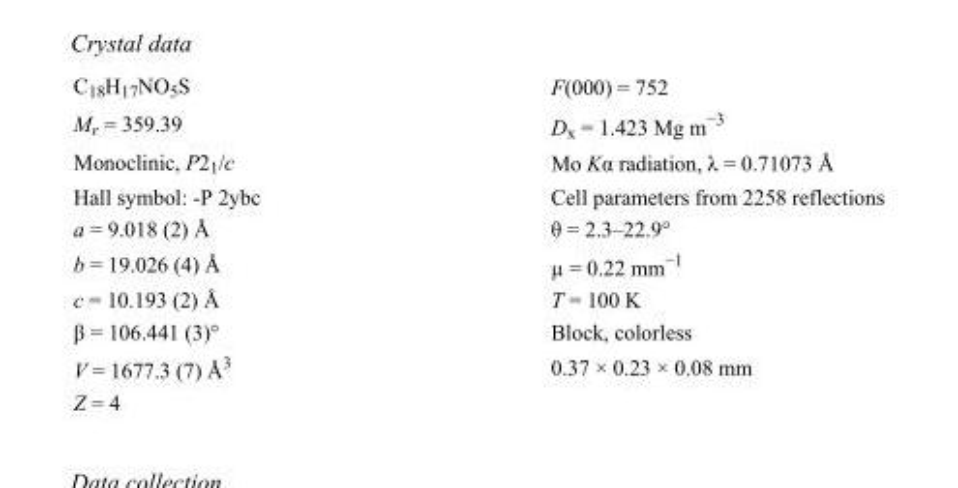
<table><tbody><tr><td>C<sub>18</sub>H<sub>17</sub>NO<sub>5</sub>S</td><td>F(000) = 752</td></tr><tr><td>M<sub>r</sub> = 359.39</td><td>D<sub>x</sub> = 1.423 Mg m<sup>−3</sup></td></tr><tr><td>Monoclinic, P2<sub>1</sub>/c</td><td>Mo Kα radiation, λ = 0.71073 Å</td></tr><tr><td>Hall symbol: -P 2ybc</td><td>Cell parameters from 2258 reflections</td></tr><tr><td>a = 9.018 (2) Å</td><td>θ = 2.3–22.9°</td></tr><tr><td>b = 19.026 (4) Å</td><td>µ = 0.22 mm<sup>−1</sup></td></tr><tr><td>c = 10.193 (2) Å</td><td>T = 100 K</td></tr><tr><td>β = 106.441 (3)°</td><td>Block, colorless</td></tr><tr><td>V = 1677.3 (7) Å<sup>3</sup></td><td>0.37 × 0.23 × 0.08 mm</td></tr><tr><td>Z = 4</td><td></td></tr></tbody></table>